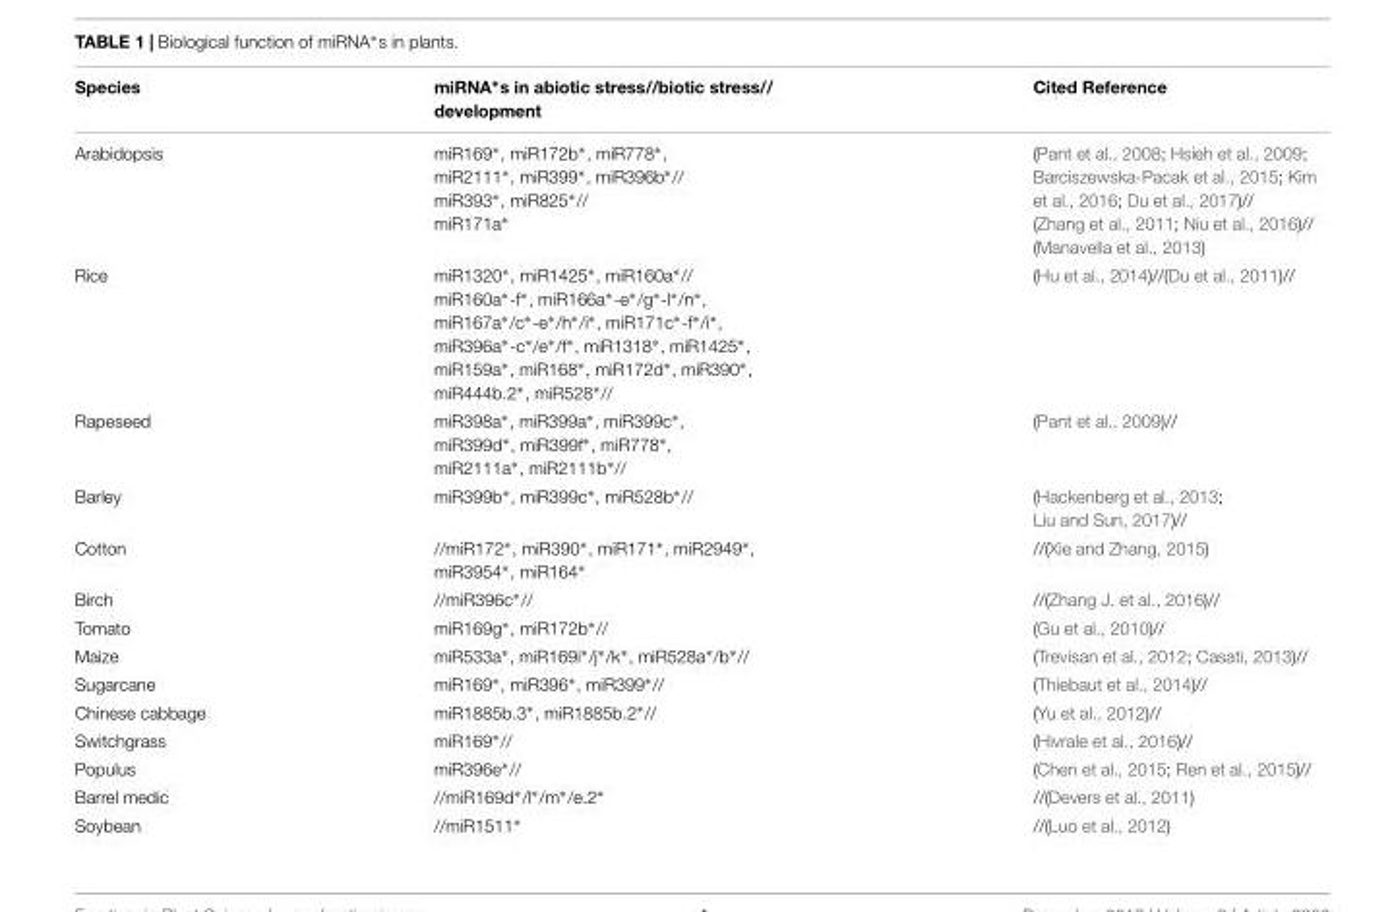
<table><thead><tr><td>Species</td><td>miRNA∗s in abiotic stress//biotic stress// development</td><td>Cited Reference</td></tr></thead><tbody><tr><td>Arabidopsis</td><td>miR169∗, miR172b∗, miR778∗, miR2111∗, miR399∗, miR396b∗// miR393∗, miR825∗// miR171a∗</td><td>(Pant et al., 2008; Hsieh et al., 2009; Barciszewska-Pacak et al., 2015; Kim et al., 2016; Du et al., 2017)// (Zhang et al., 2011; Niu et al., 2016)// (Manavella et al., 2013)</td></tr><tr><td>Rice</td><td>miR1320∗, miR1425∗, miR160a∗// miR160a∗-f∗, miR166a∗-e∗/g∗-l∗/n∗, miR167a∗/c∗-e∗/h∗/i∗, miR171c∗-f∗/i∗, miR396a∗-c∗/e∗/f∗, miR1318∗, miR1425∗, miR159a∗, miR168∗, miR172d∗, miR390∗, miR444b.2∗, miR528∗//</td><td>(Hu et al., 2014)//(Du et al., 2011)//</td></tr><tr><td>Rapeseed</td><td>miR398a∗, miR399a∗, miR399c∗, miR399d∗, miR399f∗, miR778∗, miR2111a∗, miR2111b∗//</td><td>(Pant et al., 2009)//</td></tr><tr><td>Barley</td><td>miR399b∗, miR399c∗, miR528b∗//</td><td>(Hackenberg et al., 2013; Liu and Sun, 2017)//</td></tr><tr><td>Cotton</td><td>//miR172∗, miR390∗, miR171∗, miR2949∗, miR3954∗, miR164∗</td><td>//(Xie and Zhang, 2015)</td></tr><tr><td>Birch</td><td>//miR396c∗//</td><td>//(Zhang J. et al., 2016)//</td></tr><tr><td>Tomato</td><td>miR169g∗, miR172b∗//</td><td>(Gu et al., 2010)//</td></tr><tr><td>Maize</td><td>miR533a∗, miR169i∗/j∗/k∗, miR528a∗/b∗//</td><td>(Trevisan et al., 2012; Casati, 2013)//</td></tr><tr><td>Sugarcane</td><td>miR169∗, miR396∗, miR399∗//</td><td>(Thiebaut et al., 2014)//</td></tr><tr><td>Chinese cabbage</td><td>miR1885b.3∗, miR1885b.2∗//</td><td>(Yu et al., 2012)//</td></tr><tr><td>Switchgrass</td><td>miR169∗//</td><td>(Hivrale et al., 2016)//</td></tr><tr><td>Populus</td><td>miR396e∗//</td><td>(Chen et al., 2015; Ren et al., 2015)//</td></tr><tr><td>Barrel medic</td><td>//miR169d∗/l∗/m∗/e.2∗</td><td>//(Devers et al., 2011)</td></tr><tr><td>Soybean</td><td>//miR1511∗</td><td>//(Luo et al., 2012)</td></tr></tbody></table>